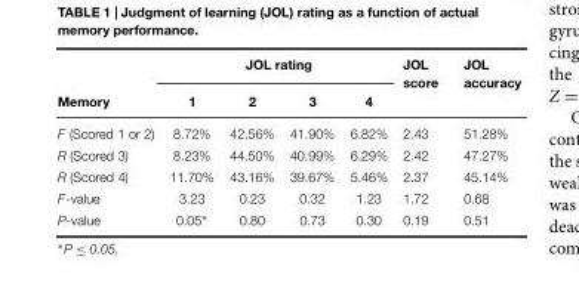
<table><thead><tr><td rowspan="2">Memory</td><td colspan="4">JOL rating</td><td rowspan="2">JOL score</td><td rowspan="2">JOL accuracy</td></tr><tr><td>1</td><td>2</td><td>3</td><td>4</td></tr></thead><tbody><tr><td>F (Scored 1 or 2)</td><td>8.72%</td><td>42.56%</td><td>41.90%</td><td>6.82%</td><td>2.43</td><td>51.28%</td></tr><tr><td>R (Scored 3)</td><td>8.23%</td><td>44.50%</td><td>40.99%</td><td>6.29%</td><td>2.42</td><td>47.27%</td></tr><tr><td>R (Scored 4)</td><td>11.70%</td><td>43.16%</td><td>39.67%</td><td>5.46%</td><td>2.37</td><td>45.14%</td></tr><tr><td>F-value</td><td>3.23</td><td>0.23</td><td>0.32</td><td>1.23</td><td>1.72</td><td>0.68</td></tr><tr><td>P-value</td><td>0.05∗</td><td>0.80</td><td>0.73</td><td>0.30</td><td>0.19</td><td>0.51</td></tr></tbody></table>